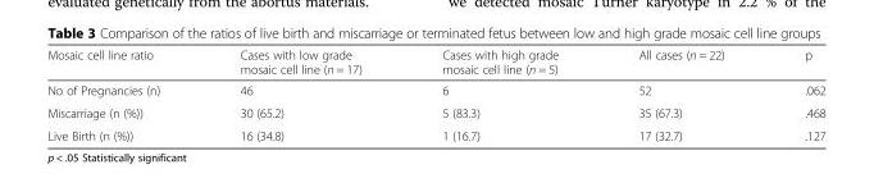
<table><thead><tr><td>Mosaic cell line ratio</td><td>Cases with low grade mosaic cell line (n = 17)</td><td>Cases with high grade mosaic cell line (n = 5)</td><td>All cases (n = 22)</td><td>p</td></tr></thead><tbody><tr><td>No of Pregnancies (n)</td><td>46</td><td>6</td><td>52</td><td>.062</td></tr><tr><td>Miscarriage (n (%))</td><td>30 (65.2)</td><td>5 (83.3)</td><td>35 (67.3)</td><td>.468</td></tr><tr><td>Live Birth (n (%))</td><td>16 (34.8)</td><td>1 (16.7)</td><td>17 (32.7)</td><td>.127</td></tr></tbody></table>